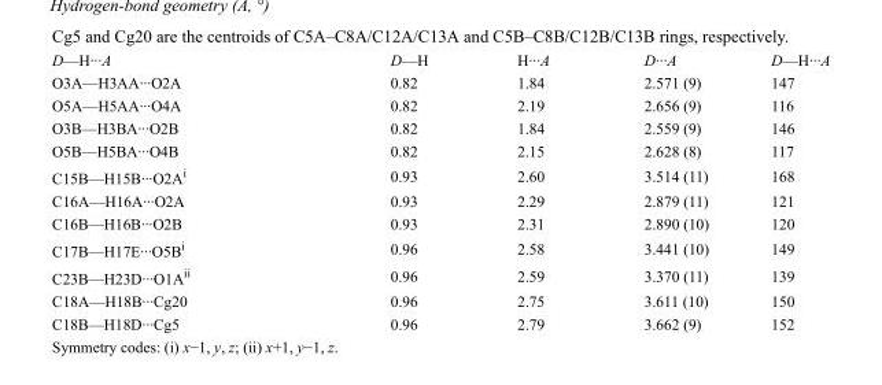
<table><tbody><tr><td>D—H···A</td><td>D—H</td><td>H···A</td><td>D···A</td><td>D—H···A</td></tr><tr><td>O3A—H3AA···O2A</td><td>0.82</td><td>1.84</td><td>2.571 (9)</td><td>147</td></tr><tr><td>O5A—H5AA···O4A</td><td>0.82</td><td>2.19</td><td>2.656 (9)</td><td>116</td></tr><tr><td>O3B—H3BA···O2B</td><td>0.82</td><td>1.84</td><td>2.559 (9)</td><td>146</td></tr><tr><td>O5B—H5BA···O4B</td><td>0.82</td><td>2.15</td><td>2.628 (8)</td><td>117</td></tr><tr><td>C15B—H15B···O2A<sup>i</sup></td><td>0.93</td><td>2.60</td><td>3.514 (11)</td><td>168</td></tr><tr><td>C16A—H16A···O2A</td><td>0.93</td><td>2.29</td><td>2.879 (11)</td><td>121</td></tr><tr><td>C16B—H16B···O2B</td><td>0.93</td><td>2.31</td><td>2.890 (10)</td><td>120</td></tr><tr><td>C17B—H17E···O5B<sup>i</sup></td><td>0.96</td><td>2.58</td><td>3.441 (10)</td><td>149</td></tr><tr><td>C23B—H23D···O1A<sup>ii</sup></td><td>0.96</td><td>2.59</td><td>3.370 (11)</td><td>139</td></tr><tr><td>C18A—H18B···Cg20</td><td>0.96</td><td>2.75</td><td>3.611 (10)</td><td>150</td></tr><tr><td>C18B—H18D···Cg5</td><td>0.96</td><td>2.79</td><td>3.662 (9)</td><td>152</td></tr></tbody></table>